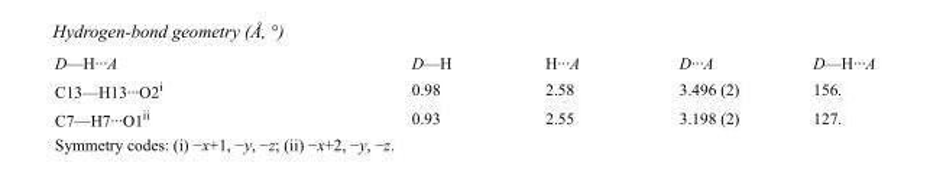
<table><tbody><tr><td>D—H···A</td><td>D—H</td><td>H···A</td><td>D···A</td><td>D—H···A</td></tr><tr><td>C13—H13···O2<sup>i</sup></td><td>0.98</td><td>2.58</td><td>3.496 (2)</td><td>156.</td></tr><tr><td>C7—H7···O1<sup>ii</sup></td><td>0.93</td><td>2.55</td><td>3.198 (2)</td><td>127.</td></tr></tbody></table>